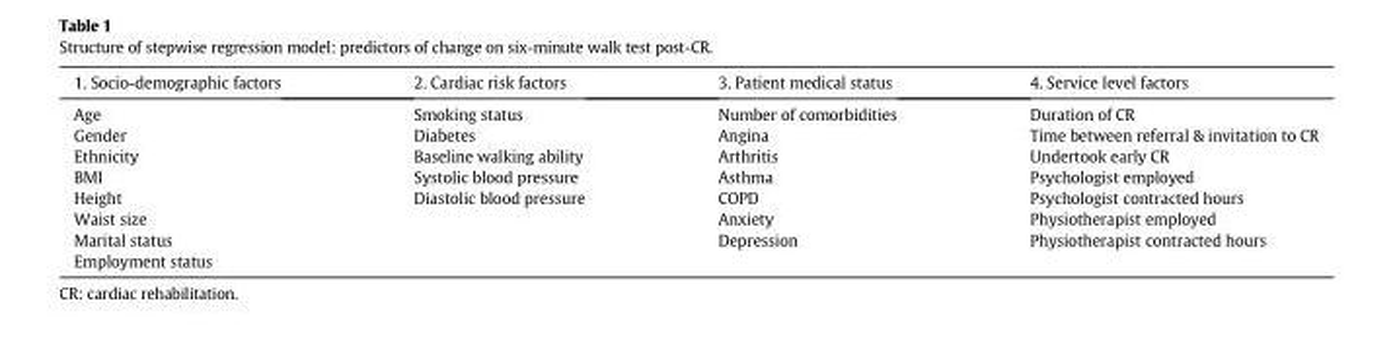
<table><thead><tr><td>1. Socio-demographic factors</td><td>2. Cardiac risk factors</td><td>3. Patient medical status</td><td>4. Service level factors</td></tr></thead><tbody><tr><td>Age</td><td>Smoking status</td><td>Number of comorbidities</td><td>Duration of CR</td></tr><tr><td>Gender</td><td>Diabetes</td><td>Angina</td><td>Time between referral &amp; invitation to CR</td></tr><tr><td>Ethnicity</td><td>Baseline walking ability</td><td>Arthritis</td><td>Undertook early CR</td></tr><tr><td>BMI</td><td>Systolic blood pressure</td><td>Asthma</td><td>Psychologist employed</td></tr><tr><td>Height</td><td>Diastolic blood pressure</td><td>COPD</td><td>Psychologist contracted hours</td></tr><tr><td>Waist size</td><td></td><td>Anxiety</td><td>Physiotherapist employed</td></tr><tr><td>Marital status</td><td></td><td>Depression</td><td>Physiotherapist contracted hours</td></tr><tr><td>Employment status</td><td></td><td></td><td></td></tr></tbody></table>